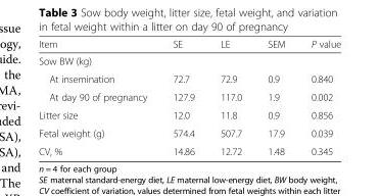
<table><thead><tr><td>Item</td><td>SE</td><td>LE</td><td>SEM</td><td>P value</td></tr></thead><tbody><tr><td colspan="5">Sow BW (kg)</td></tr><tr><td>At insemination</td><td>72.7</td><td>72.9</td><td>0.9</td><td>0.840</td></tr><tr><td>At day 90 of pregnancy</td><td>127.9</td><td>117.0</td><td>1.9</td><td>0.002</td></tr><tr><td>Litter size</td><td>12.0</td><td>11.8</td><td>0.9</td><td>0.856</td></tr><tr><td>Fetal weight (g)</td><td>574.4</td><td>507.7</td><td>17.9</td><td>0.039</td></tr><tr><td>CV, %</td><td>14.86</td><td>12.72</td><td>1.48</td><td>0.345</td></tr></tbody></table>